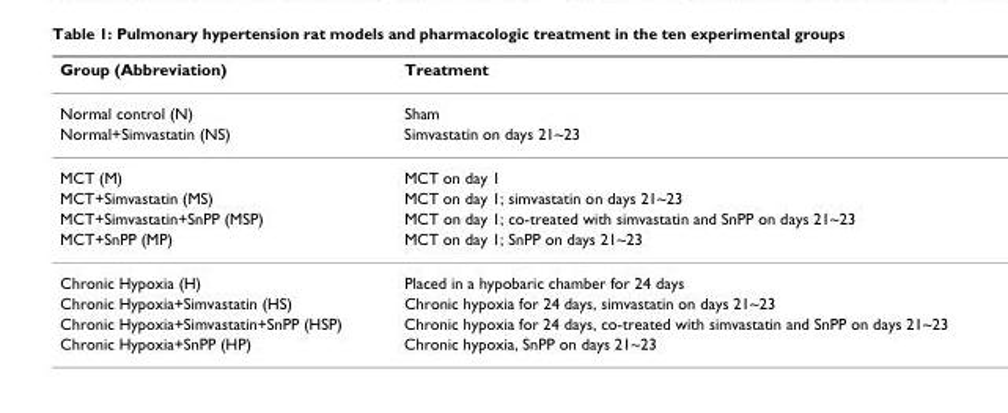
<table><thead><tr><td>Group (Abbreviation)</td><td>Treatment</td></tr></thead><tbody><tr><td>Normal control (N)</td><td>Sham</td></tr><tr><td>Normal+Simvastatin (NS)</td><td>Simvastatin on days 21~23</td></tr><tr><td>MCT (M)</td><td>MCT on day 1</td></tr><tr><td>MCT+Simvastatin (MS)</td><td>MCT on day 1; simvastatin on days 21~23</td></tr><tr><td>MCT+Simvastatin+SnPP (MSP)</td><td>MCT on day 1; co-treated with simvastatin and SnPP on days 21~23</td></tr><tr><td>MCT+SnPP (MP)</td><td>MCT on day 1; SnPP on days 21~23</td></tr><tr><td>Chronic Hypoxia (H)</td><td>Placed in a hypobaric chamber for 24 days</td></tr><tr><td>Chronic Hypoxia+Simvastatin (HS)</td><td>Chronic hypoxia for 24 days, simvastatin on days 21~23</td></tr><tr><td>Chronic Hypoxia+Simvastatin+SnPP (HSP)</td><td>Chronic hypoxia for 24 days, co-treated with simvastatin and SnPP on days 21~23</td></tr><tr><td>Chronic Hypoxia+SnPP (HP)</td><td>Chronic hypoxia, SnPP on days 21~23</td></tr></tbody></table>